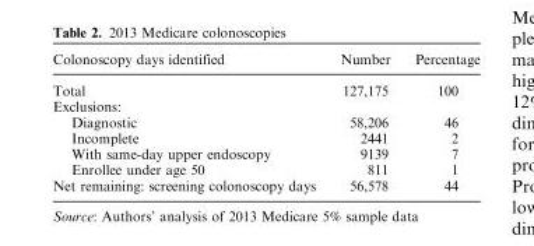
<table><thead><tr><td>Colonoscopy days identified</td><td>Number</td><td>Percentage</td></tr></thead><tbody><tr><td>Total</td><td>127,175</td><td>100</td></tr><tr><td colspan="3">Exclusions:</td></tr><tr><td>Diagnostic</td><td>58,206</td><td>46</td></tr><tr><td>Incomplete</td><td>2441</td><td>2</td></tr><tr><td>With same-day upper endoscopy</td><td>9139</td><td>7</td></tr><tr><td>Enrollee under age 50</td><td>811</td><td>1</td></tr><tr><td>Net remaining: screening colonoscopy days</td><td>56,578</td><td>44</td></tr></tbody></table>